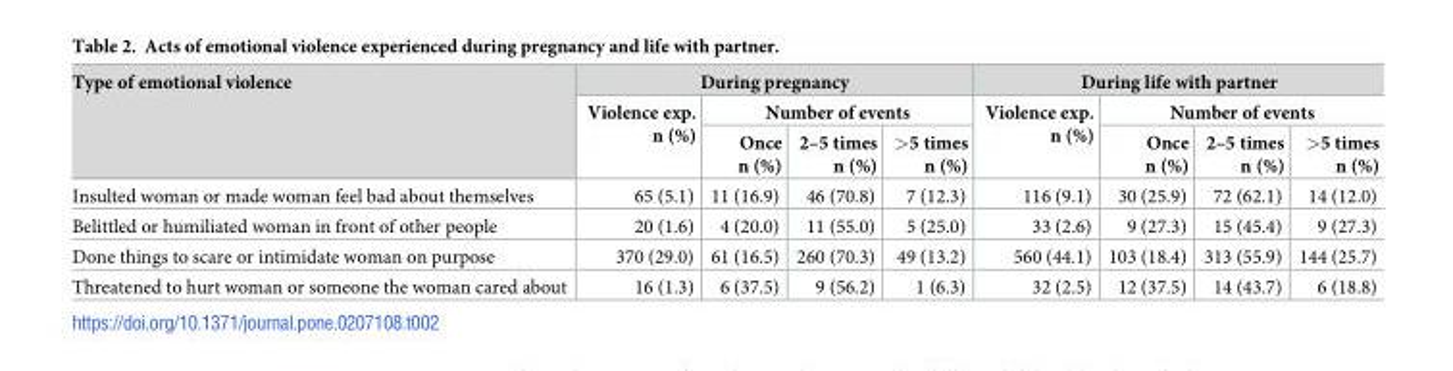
<table><thead><tr><td rowspan="3">Type of emotional violence</td><td colspan="4">During pregnancy</td><td colspan="4">During life with partner</td></tr><tr><td rowspan="2">Violence exp. n (%)</td><td colspan="3">Number of events</td><td rowspan="2">Violence exp. n (%)</td><td colspan="3">Number of events</td></tr><tr><td>Once n (%)</td><td>2–5 times n (%)</td><td>&gt;5 times n (%)</td><td>Once n (%)</td><td>2–5 times n (%)</td><td>&gt;5 times n (%)</td></tr></thead><tbody><tr><td>Insulted woman or made woman feel bad about themselves</td><td>65 (5.1)</td><td>11 (16.9)</td><td>46 (70.8)</td><td>7 (12.3)</td><td>116 (9.1)</td><td>30 (25.9)</td><td>72 (62.1)</td><td>14 (12.0)</td></tr><tr><td>Belittled or humiliated woman in front of other people</td><td>20 (1.6)</td><td>4 (20.0)</td><td>11 (55.0)</td><td>5 (25.0)</td><td>33 (2.6)</td><td>9 (27.3)</td><td>15 (45.4)</td><td>9 (27.3)</td></tr><tr><td>Done things to scare or intimidate woman on purpose</td><td>370 (29.0)</td><td>61 (16.5)</td><td>260 (70.3)</td><td>49 (13.2)</td><td>560 (44.1)</td><td>103 (18.4)</td><td>313 (55.9)</td><td>144 (25.7)</td></tr><tr><td>Threatened to hurt woman or someone the woman cared about</td><td>16 (1.3)</td><td>6 (37.5)</td><td>9 (56.2)</td><td>1 (6.3)</td><td>32 (2.5)</td><td>12 (37.5)</td><td>14 (43.7)</td><td>6 (18.8)</td></tr></tbody></table>